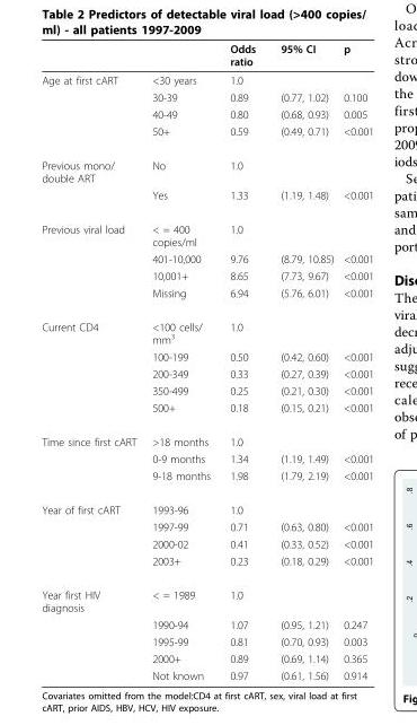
<table><thead><tr><td></td><td></td><td>Odds ratio</td><td>95% CI</td><td>p</td></tr></thead><tbody><tr><td rowspan="4">Age at first cART</td><td>&lt;30 years</td><td>1.0</td><td></td><td></td></tr><tr><td>30-39</td><td>0.89</td><td>(0.77, 1.02)</td><td>0.100</td></tr><tr><td>40-49</td><td>0.80</td><td>(0.68, 0.93)</td><td>0.005</td></tr><tr><td>50+</td><td>0.59</td><td>(0.49, 0.71)</td><td>&lt;0.001</td></tr><tr><td rowspan="2">Previous mono/ double ART</td><td>No</td><td>1.0</td><td></td><td></td></tr><tr><td>Yes</td><td>1.33</td><td>(1.19, 1.48)</td><td>&lt;0.001</td></tr><tr><td rowspan="4">Previous viral load</td><td>&lt; = 400 copies/ml</td><td>1.0</td><td></td><td></td></tr><tr><td>401-10,000</td><td>9.76</td><td>(8.79, 10.85)</td><td>&lt;0.001</td></tr><tr><td>10,001+</td><td>8.65</td><td>(7.73, 9.67)</td><td>&lt;0.001</td></tr><tr><td>Missing</td><td>6.94</td><td>(5.76, 6.01)</td><td>&lt;0.001</td></tr><tr><td rowspan="5">Current CD4</td><td>&lt;100 cells/ mm<sup>3</sup></td><td>1.0</td><td></td><td></td></tr><tr><td>100-199</td><td>0.50</td><td>(0.42, 0.60)</td><td>&lt;0.001</td></tr><tr><td>200-349</td><td>0.33</td><td>(0.27, 0.39)</td><td>&lt;0.001</td></tr><tr><td>350-499</td><td>0.25</td><td>(0.21, 0.30)</td><td>&lt;0.001</td></tr><tr><td>500+</td><td>0.18</td><td>(0.15, 0.21)</td><td>&lt;0.001</td></tr><tr><td rowspan="3">Time since first cART</td><td>&gt;18 months</td><td>1.0</td><td></td><td></td></tr><tr><td>0-9 months</td><td>1.34</td><td>(1.19, 1.49)</td><td>&lt;0.001</td></tr><tr><td>9-18 months</td><td>1.98</td><td>(1.79, 2.19)</td><td>&lt;0.001</td></tr><tr><td rowspan="4">Year of first cART</td><td>1993-96</td><td>1.0</td><td></td><td></td></tr><tr><td>1997-99</td><td>0.71</td><td>(0.63, 0.80)</td><td>&lt;0.001</td></tr><tr><td>2000-02</td><td>0.41</td><td>(0.33, 0.52)</td><td>&lt;0.001</td></tr><tr><td>2003+</td><td>0.23</td><td>(0.18, 0.29)</td><td>&lt;0.001</td></tr><tr><td rowspan="5">Year first HIV diagnosis</td><td>&lt; = 1989</td><td>1.0</td><td></td><td></td></tr><tr><td>1990-94</td><td>1.07</td><td>(0.95, 1.21)</td><td>0.247</td></tr><tr><td>1995-99</td><td>0.81</td><td>(0.70, 0.93)</td><td>0.003</td></tr><tr><td>2000+</td><td>0.89</td><td>(0.69, 1.14)</td><td>0.365</td></tr><tr><td>Not known</td><td>0.97</td><td>(0.61, 1.56)</td><td>0.914</td></tr></tbody></table>